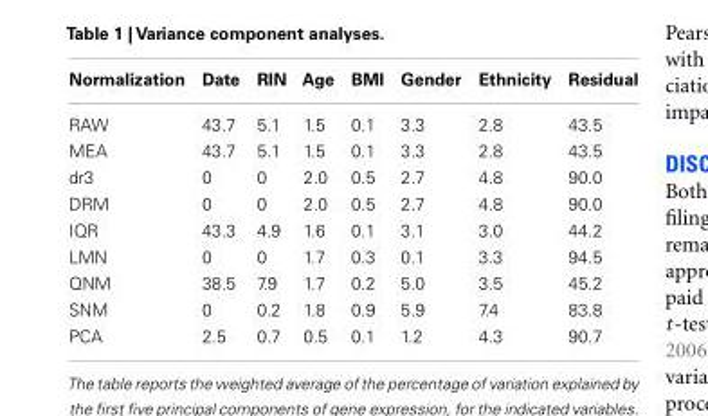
<table><thead><tr><td>Normalization</td><td>Date</td><td>RIN</td><td>Age</td><td>BMI</td><td>Gender</td><td>Ethnicity</td><td>Residual</td></tr></thead><tbody><tr><td>RAW</td><td>43.7</td><td>5.1</td><td>1.5</td><td>0.1</td><td>3.3</td><td>2.8</td><td>43.5</td></tr><tr><td>MEA</td><td>43.7</td><td>5.1</td><td>1.5</td><td>0.1</td><td>3.3</td><td>2.8</td><td>43.5</td></tr><tr><td>dr3</td><td>0</td><td>0</td><td>2.0</td><td>0.5</td><td>2.7</td><td>4.8</td><td>90.0</td></tr><tr><td>DRM</td><td>0</td><td>0</td><td>2.0</td><td>0.5</td><td>2.7</td><td>4.8</td><td>90.0</td></tr><tr><td>IQR</td><td>43.3</td><td>4.9</td><td>1.6</td><td>0.1</td><td>3.1</td><td>3.0</td><td>44.2</td></tr><tr><td>LMN</td><td>0</td><td>0</td><td>1.7</td><td>0.3</td><td>0.1</td><td>3.3</td><td>94.5</td></tr><tr><td>QNM</td><td>38.5</td><td>7.9</td><td>1.7</td><td>0.2</td><td>5.0</td><td>3.5</td><td>45.2</td></tr><tr><td>SNM</td><td>0</td><td>0.2</td><td>1.8</td><td>0.9</td><td>5.9</td><td>7.4</td><td>83.8</td></tr><tr><td>PCA</td><td>2.5</td><td>0.7</td><td>0.5</td><td>0.1</td><td>1.2</td><td>4.3</td><td>90.7</td></tr></tbody></table>